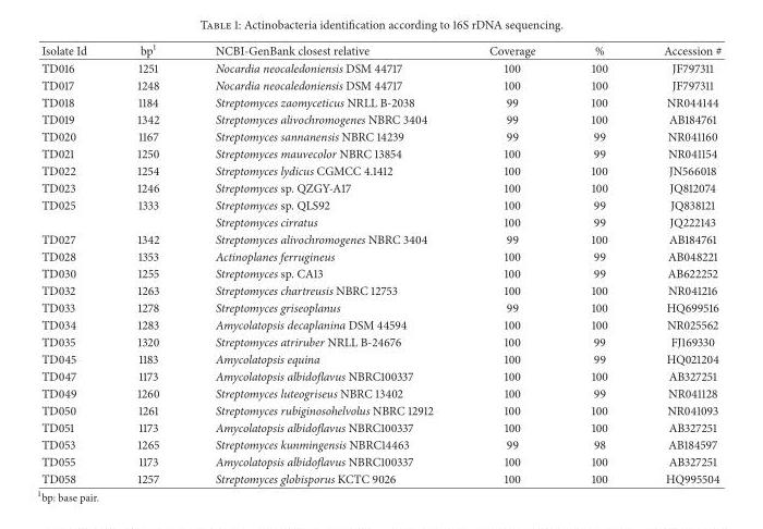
<table><thead><tr><td>Isolate Id</td><td>bp<sup>1</sup></td><td>NCBI-GenBank closest relative</td><td>Coverage</td><td>%</td><td>Accession #</td></tr></thead><tbody><tr><td>TD016</td><td>1251</td><td>Nocardia neocaledoniensis DSM 44717</td><td>100</td><td>100</td><td>JF797311</td></tr><tr><td>TD017</td><td>1248</td><td>Nocardia neocaledoniensis DSM 44717</td><td>100</td><td>100</td><td>JF797311</td></tr><tr><td>TD018</td><td>1184</td><td>Streptomyces zaomyceticus NRLL B-2038</td><td>99</td><td>100</td><td>NR044144</td></tr><tr><td>TD019</td><td>1342</td><td>Streptomyces alivochromogenes NBRC 3404</td><td>99</td><td>100</td><td>AB184761</td></tr><tr><td>TD020</td><td>1167</td><td>Streptomyces sannanensis NBRC 14239</td><td>99</td><td>99</td><td>NR041160</td></tr><tr><td>TD021</td><td>1250</td><td>Streptomyces mauvecolor NBRC 13854</td><td>100</td><td>99</td><td>NR041154</td></tr><tr><td>TD022</td><td>1254</td><td>Streptomyces lydicus CGMCC 4.1412</td><td>100</td><td>100</td><td>JN566018</td></tr><tr><td>TD023</td><td>1246</td><td>Streptomyces sp. QZGY-A17</td><td>100</td><td>100</td><td>JQ812074</td></tr><tr><td rowspan="2">TD025</td><td>1333</td><td>Streptomyces sp. QLS92</td><td>100</td><td>99</td><td>JQ838121</td></tr><tr><td></td><td>Streptomyces cirratus</td><td>100</td><td>99</td><td>JQ222143</td></tr><tr><td>TD027</td><td>1342</td><td>Streptomyces alivochromogenes NBRC 3404</td><td>99</td><td>100</td><td>AB184761</td></tr><tr><td>TD028</td><td>1353</td><td>Actinoplanes ferrugineus</td><td>100</td><td>99</td><td>AB048221</td></tr><tr><td>TD030</td><td>1255</td><td>Streptomyces sp. CA13</td><td>100</td><td>99</td><td>AB622252</td></tr><tr><td>TD032</td><td>1263</td><td>Streptomyces chartreusis NBRC 12753</td><td>100</td><td>100</td><td>NR041216</td></tr><tr><td>TD033</td><td>1278</td><td>Streptomyces griseoplanus</td><td>99</td><td>100</td><td>HQ699516</td></tr><tr><td>TD034</td><td>1283</td><td>Amycolatopsis decaplanina DSM 44594</td><td>100</td><td>100</td><td>NR025562</td></tr><tr><td>TD035</td><td>1320</td><td>Streptomyces atriruber NRLL B-24676</td><td>100</td><td>99</td><td>FJ169330</td></tr><tr><td>TD045</td><td>1183</td><td>Amycolatopsis equina</td><td>100</td><td>99</td><td>HQ021204</td></tr><tr><td>TD047</td><td>1173</td><td>Amycolatopsis albidoflavus NBRC100337</td><td>100</td><td>100</td><td>AB327251</td></tr><tr><td>TD049</td><td>1260</td><td>Streptomyces luteogriseus NBRC 13402</td><td>100</td><td>99</td><td>NR041128</td></tr><tr><td>TD050</td><td>1261</td><td>Streptomyces rubiginosohelvolus NBRC 12912</td><td>100</td><td>100</td><td>NR041093</td></tr><tr><td>TD051</td><td>1173</td><td>Amycolatopsis albidoflavus NBRC100337</td><td>100</td><td>100</td><td>AB327251</td></tr><tr><td>TD053</td><td>1265</td><td>Streptomyces kunmingensis NBRC14463</td><td>99</td><td>98</td><td>AB184597</td></tr><tr><td>TD055</td><td>1173</td><td>Amycolatopsis albidoflavus NBRC100337</td><td>100</td><td>100</td><td>AB327251</td></tr><tr><td>TD058</td><td>1257</td><td>Streptomyces globisporus KCTC 9026</td><td>100</td><td>100</td><td>HQ995504</td></tr></tbody></table>